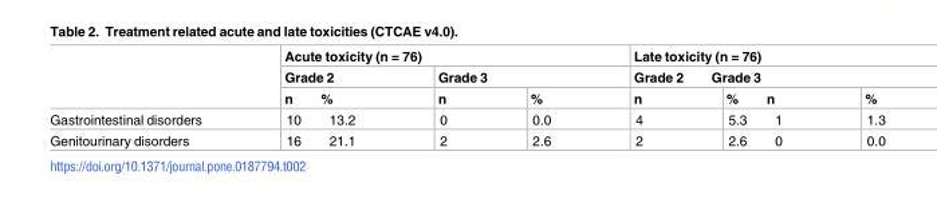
<table><thead><tr><td rowspan="3"></td><td colspan="3">Acute toxicity (n = 76)</td><td rowspan="2" colspan="3">Late toxicity (n = 76) Grade 2 Grade 3</td></tr><tr><td rowspan="2">Grade 2 n %</td><td colspan="2">Grade 3</td></tr><tr><td>n</td><td>%</td><td>n</td><td>% n</td><td>%</td></tr></thead><tbody><tr><td>Gastrointestinal disorders</td><td>10 13.2</td><td>0</td><td>0.0</td><td>4</td><td>5.3 1</td><td>1.3</td></tr><tr><td>Genitourinary disorders</td><td>16 21.1</td><td>2</td><td>2.6</td><td>2</td><td>2.6 0</td><td>0.0</td></tr></tbody></table>